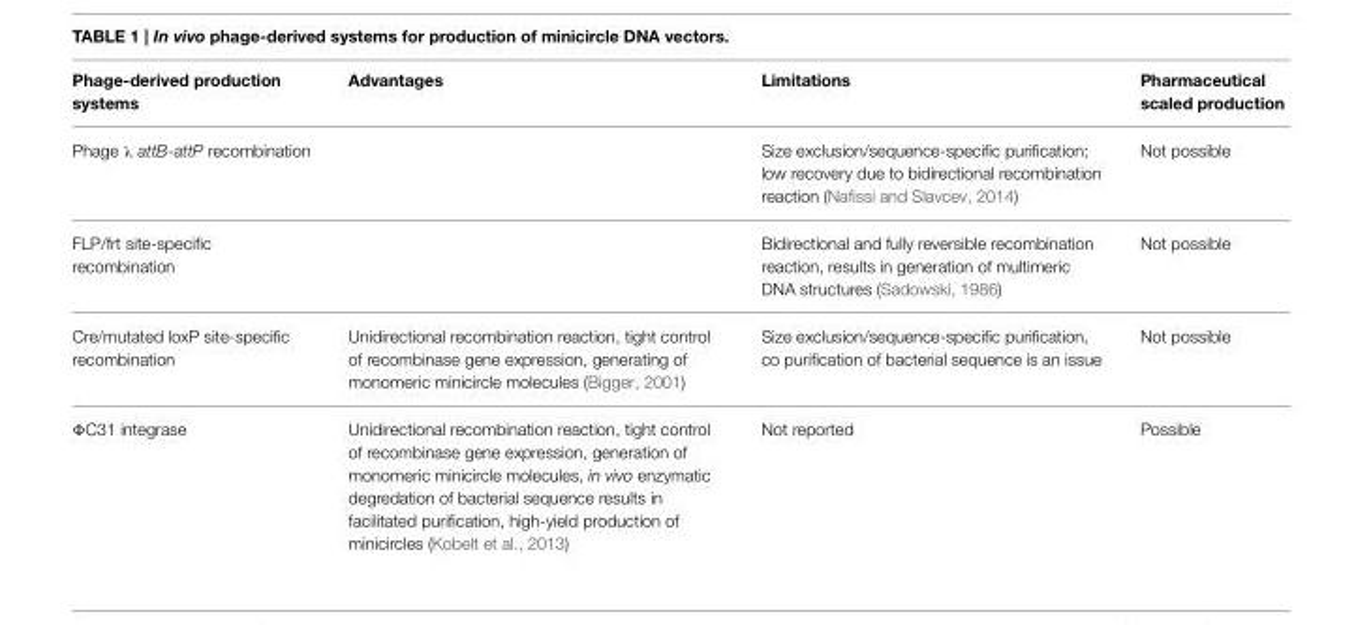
<table><thead><tr><td>Phage-derived production systems</td><td>Advantages</td><td>Limitations</td><td>Pharmaceutical scaled production</td></tr></thead><tbody><tr><td>Phage λ attB-attP recombination</td><td></td><td>Size exclusion/sequence-specific purification; low recovery due to bidirectional recombination reaction (Nafissi and Slavcev, 2014)</td><td>Not possible</td></tr><tr><td>FLP/frt site-specific recombination</td><td></td><td>Bidirectional and fully reversible recombination reaction, results in generation of multimeric DNA structures (Sadowski, 1986)</td><td>Not possible</td></tr><tr><td>Cre/mutated loxP site-specific recombination</td><td>Unidirectional recombination reaction, tight control of recombinase gene expression, generating of monomeric minicircle molecules (Bigger, 2001)</td><td>Size exclusion/sequence-specific purification, co purification of bacterial sequence is an issue</td><td>Not possible</td></tr><tr><td>ΦC31 integrase</td><td>Unidirectional recombination reaction, tight control of recombinase gene expression, generation of monomeric minicircle molecules, in vivo enzymatic degredation of bacterial sequence results in facilitated purification, high-yield production of minicircles (Kobelt et al., 2013)</td><td>Not reported</td><td>Possible</td></tr></tbody></table>